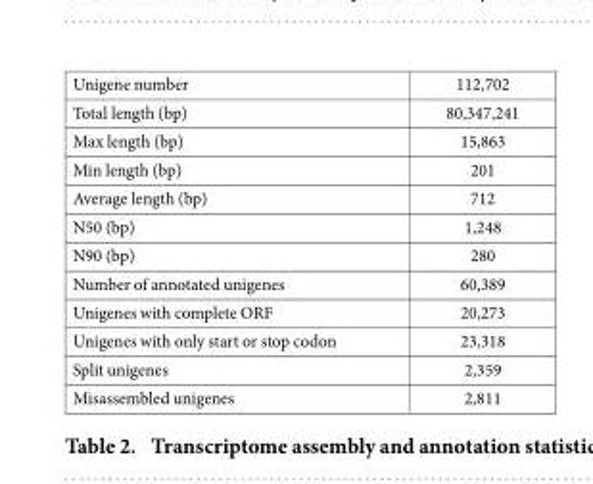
<table><tbody><tr><td>Unigene number</td><td>112,702</td></tr><tr><td>Total length (bp)</td><td>80,347,241</td></tr><tr><td>Max length (bp)</td><td>15,863</td></tr><tr><td>Min length (bp)</td><td>201</td></tr><tr><td>Average length (bp)</td><td>712</td></tr><tr><td>N50 (bp)</td><td>1,248</td></tr><tr><td>N90 (bp)</td><td>280</td></tr><tr><td>Number of annotated unigenes</td><td>60,389</td></tr><tr><td>Unigenes with complete ORF</td><td>20,273</td></tr><tr><td>Unigenes with only start or stop codon</td><td>23,318</td></tr><tr><td>Split unigenes</td><td>2,359</td></tr><tr><td>Misassembled unigenes</td><td>2,811</td></tr></tbody></table>